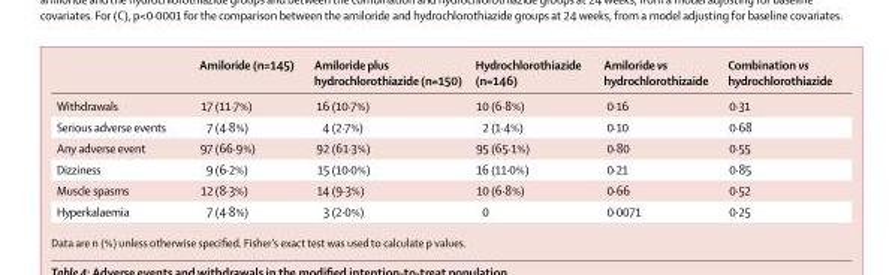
<table><thead><tr><td></td><td>Amiloride (n=145)</td><td>Amiloride plus hydrochlorothiazide (n=150)</td><td>Hydrochlorothiazide (n=146)</td><td>Amiloride vs hydrochlorothizaide</td><td>Combination vs hydrochlorothiazide</td></tr></thead><tbody><tr><td>Withdrawals</td><td>17 (11·7%)</td><td>16 (10·7%)</td><td>10 (6·8%)</td><td>0·16</td><td>0·31</td></tr><tr><td>Serious adverse events</td><td>7 (4·8%)</td><td>4 (2·7%)</td><td>2 (1·4%)</td><td>0·10</td><td>0·68</td></tr><tr><td>Any adverse event</td><td>97 (66·9%)</td><td>92 (61·3%)</td><td>95 (65·1%)</td><td>0·80</td><td>0·55</td></tr><tr><td>Dizziness</td><td>9 (6·2%)</td><td>15 (10·0%)</td><td>16 (11·0%)</td><td>0·21</td><td>0·85</td></tr><tr><td>Muscle spasms</td><td>12 (8·3%)</td><td>14 (9·3%)</td><td>10 (6·8%)</td><td>0·66</td><td>0·52</td></tr><tr><td>Hyperkalaemia</td><td>7 (4·8%)</td><td>3 (2·0%)</td><td>0</td><td>0·0071</td><td>0·25</td></tr></tbody></table>